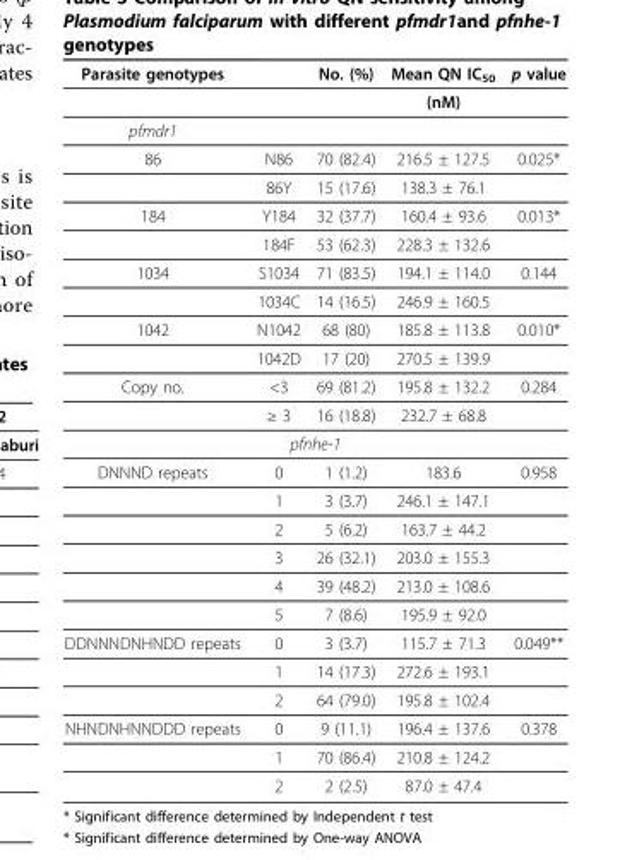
<table><thead><tr><td>Parasite genotypes</td><td></td><td>No. (%)</td><td>Mean QN IC50</td><td>p value</td></tr></thead><tbody><tr><td></td><td></td><td></td><td>(nM)</td><td></td></tr><tr><td colspan="5">pfmdr1</td></tr><tr><td rowspan="2">86</td><td>N86</td><td>70 (82.4)</td><td>216.5 ± 127.5</td><td>0.025*</td></tr><tr><td>86Y</td><td>15 (17.6)</td><td>138.3 ± 76.1</td><td></td></tr><tr><td rowspan="2">184</td><td>Y184</td><td>32 (37.7)</td><td>160.4 ± 93.6</td><td>0.013*</td></tr><tr><td>184F</td><td>53 (62.3)</td><td>228.3 ± 132.6</td><td></td></tr><tr><td rowspan="2">1034</td><td>S1034</td><td>71 (83.5)</td><td>194.1 ± 114.0</td><td>0.144</td></tr><tr><td>1034C</td><td>14 (16.5)</td><td>246.9 ± 160.5</td><td></td></tr><tr><td rowspan="2">1042</td><td>N1042</td><td>68 (80)</td><td>185.8 ± 113.8</td><td>0.010*</td></tr><tr><td>1042D</td><td>17 (20)</td><td>270.5 ± 139.9</td><td></td></tr><tr><td rowspan="2">Copy no.</td><td>&lt;3</td><td>69 (81.2)</td><td>195.8 ± 132.2</td><td>0.284</td></tr><tr><td>≥ 3</td><td>16 (18.8)</td><td>232.7 ± 68.8</td><td></td></tr><tr><td colspan="5">pfnhe-1</td></tr><tr><td rowspan="6">DNNND repeats</td><td>0</td><td>1 (1.2)</td><td>183.6</td><td>0.958</td></tr><tr><td>1</td><td>3 (3.7)</td><td>246.1 ± 147.1</td><td></td></tr><tr><td>2</td><td>5 (6.2)</td><td>163.7 ± 44.2</td><td></td></tr><tr><td>3</td><td>26 (32.1)</td><td>203.0 ± 155.3</td><td></td></tr><tr><td>4</td><td>39 (48.2)</td><td>213.0 ± 108.6</td><td></td></tr><tr><td>5</td><td>7 (8.6)</td><td>195.9 ± 92.0</td><td></td></tr><tr><td rowspan="3">DDNNNDNHNDD repeats</td><td>0</td><td>3 (3.7)</td><td>115.7 ± 71.3</td><td>0.049**</td></tr><tr><td>1</td><td>14 (17.3)</td><td>272.6 ± 193.1</td><td></td></tr><tr><td>2</td><td>64 (79.0)</td><td>195.8 ± 102.4</td><td></td></tr><tr><td rowspan="3">NHNDNHNNDDD repeats</td><td>0</td><td>9 (11.1)</td><td>196.4 ± 137.6</td><td>0.378</td></tr><tr><td>1</td><td>70 (86.4)</td><td>210.8 ± 124.2</td><td></td></tr><tr><td>2</td><td>2 (2.5)</td><td>87.0 ± 47.4</td><td></td></tr></tbody></table>